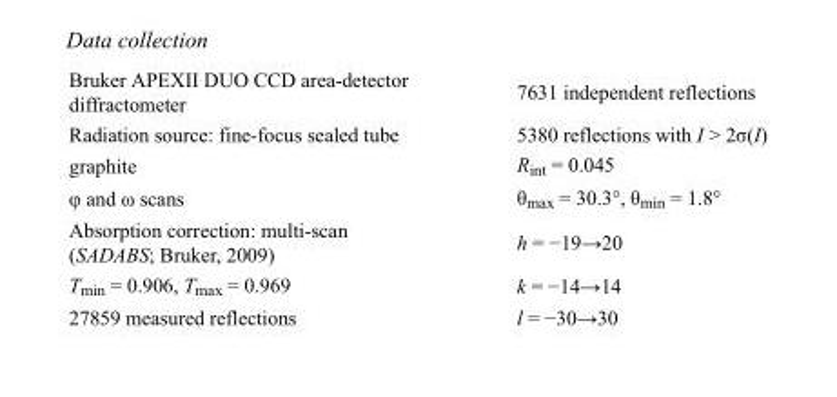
<table><tbody><tr><td>Bruker APEXII DUO CCD area-detector diffractometer</td><td>7631 independent reflections</td></tr><tr><td>Radiation source: fine-focus sealed tube</td><td>5380 reflections with I &gt; 2σ(I)</td></tr><tr><td>graphite</td><td>R<sub>int</sub> = 0.045</td></tr><tr><td>φ and ω scans</td><td>θ<sub>max</sub> = 30.3°, θ<sub>min</sub> = 1.8°</td></tr><tr><td>Absorption correction: multi-scan (SADABS; Bruker, 2009)</td><td>h = −19→20</td></tr><tr><td>T<sub>min</sub> = 0.906, T<sub>max</sub> = 0.969</td><td>k = −14→14</td></tr><tr><td>27859 measured reflections</td><td>l = −30→30</td></tr></tbody></table>